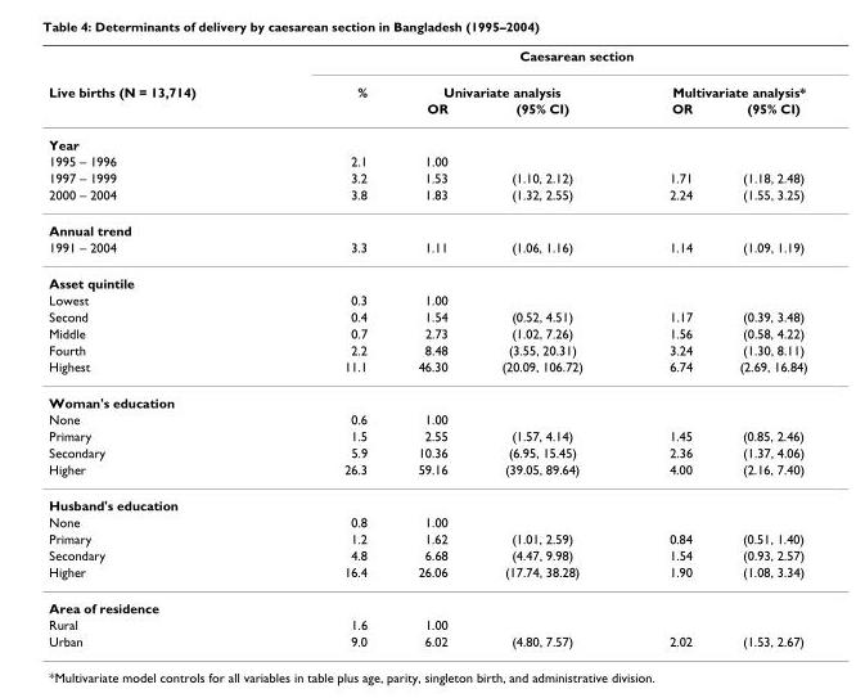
<table><thead><tr><td rowspan="3">Live births (N = 13,714)</td><td colspan="5">Caesarean section</td></tr><tr><td rowspan="2">%</td><td colspan="2">Univariate analysis</td><td colspan="2">Multivariate analysis*</td></tr><tr><td>OR</td><td>(95% CI)</td><td>OR</td><td>(95% CI)</td></tr></thead><tbody><tr><td colspan="6">Year</td></tr><tr><td>1995 – 1996</td><td>2.1</td><td>1.00</td><td></td><td></td><td></td></tr><tr><td>1997 – 1999</td><td>3.2</td><td>1.53</td><td>(1.10, 2.12)</td><td>1.71</td><td>(1.18, 2.48)</td></tr><tr><td>2000 – 2004</td><td>3.8</td><td>1.83</td><td>(1.32, 2.55)</td><td>2.24</td><td>(1.55, 3.25)</td></tr><tr><td colspan="6">Annual trend</td></tr><tr><td>1991 – 2004</td><td>3.3</td><td>1.11</td><td>(1.06, 1.16)</td><td>1.14</td><td>(1.09, 1.19)</td></tr><tr><td colspan="6">Asset quintile</td></tr><tr><td>Lowest</td><td>0.3</td><td>1.00</td><td></td><td></td><td></td></tr><tr><td>Second</td><td>0.4</td><td>1.54</td><td>(0.52, 4.51)</td><td>1.17</td><td>(0.39, 3.48)</td></tr><tr><td>Middle</td><td>0.7</td><td>2.73</td><td>(1.02, 7.26)</td><td>1.56</td><td>(0.58, 4.22)</td></tr><tr><td>Fourth</td><td>2.2</td><td>8.48</td><td>(3.55, 20.31)</td><td>3.24</td><td>(1.30, 8.11)</td></tr><tr><td>Highest</td><td>11.1</td><td>46.30</td><td>(20.09, 106.72)</td><td>6.74</td><td>(2.69, 16.84)</td></tr><tr><td colspan="6">Woman&#x27;s education</td></tr><tr><td>None</td><td>0.6</td><td>1.00</td><td></td><td></td><td></td></tr><tr><td>Primary</td><td>1.5</td><td>2.55</td><td>(1.57, 4.14)</td><td>1.45</td><td>(0.85, 2.46)</td></tr><tr><td>Secondary</td><td>5.9</td><td>10.36</td><td>(6.95, 15.45)</td><td>2.36</td><td>(1.37, 4.06)</td></tr><tr><td>Higher</td><td>26.3</td><td>59.16</td><td>(39.05, 89.64)</td><td>4.00</td><td>(2.16, 7.40)</td></tr><tr><td colspan="6">Husband&#x27;s education</td></tr><tr><td>None</td><td>0.8</td><td>1.00</td><td></td><td></td><td></td></tr><tr><td>Primary</td><td>1.2</td><td>1.62</td><td>(1.01, 2.59)</td><td>0.84</td><td>(0.51, 1.40)</td></tr><tr><td>Secondary</td><td>4.8</td><td>6.68</td><td>(4.47, 9.98)</td><td>1.54</td><td>(0.93, 2.57)</td></tr><tr><td>Higher</td><td>16.4</td><td>26.06</td><td>(17.74, 38.28)</td><td>1.90</td><td>(1.08, 3.34)</td></tr><tr><td colspan="6">Area of residence</td></tr><tr><td>Rural</td><td>1.6</td><td>1.00</td><td></td><td></td><td></td></tr><tr><td>Urban</td><td>9.0</td><td>6.02</td><td>(4.80, 7.57)</td><td>2.02</td><td>(1.53, 2.67)</td></tr></tbody></table>